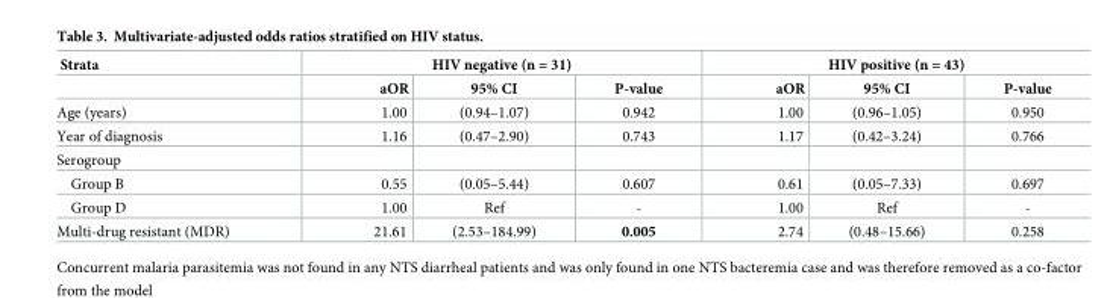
<table><thead><tr><td rowspan="2">Strata</td><td colspan="3">HIV negative (n = 31)</td><td colspan="3">HIV positive (n = 43)</td></tr><tr><td>aOR</td><td>95% CI</td><td>P-value</td><td>aOR</td><td>95% CI</td><td>P-value</td></tr></thead><tbody><tr><td>Age (years)</td><td>1.00</td><td>(0.94–1.07)</td><td>0.942</td><td>1.00</td><td>(0.96–1.05)</td><td>0.950</td></tr><tr><td>Year of diagnosis</td><td>1.16</td><td>(0.47–2.90)</td><td>0.743</td><td>1.17</td><td>(0.42–3.24)</td><td>0.766</td></tr><tr><td colspan="7">Serogroup</td></tr><tr><td>Group B</td><td>0.55</td><td>(0.05–5.44)</td><td>0.607</td><td>0.61</td><td>(0.05–7.33)</td><td>0.697</td></tr><tr><td>Group D</td><td>1.00</td><td>Ref</td><td>-</td><td>1.00</td><td>Ref</td><td>-</td></tr><tr><td>Multi-drug resistant (MDR)</td><td>21.61</td><td>(2.53–184.99)</td><td>0.005</td><td>2.74</td><td>(0.48–15.66)</td><td>0.258</td></tr></tbody></table>